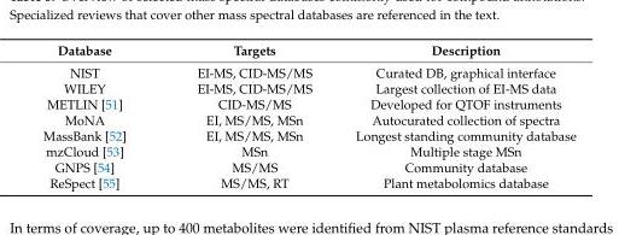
<table><thead><tr><td>Database</td><td>Targets</td><td>Description</td></tr></thead><tbody><tr><td>NIST</td><td>EI-MS, CID-MS/MS</td><td>Curated DB, graphical interface</td></tr><tr><td>WILEY</td><td>EI-MS, CID-MS/MS</td><td>Largest collection of EI-MS data</td></tr><tr><td>METLIN [51]</td><td>CID-MS/MS</td><td>Developed for QTOF instruments</td></tr><tr><td>MoNA</td><td>EI, MS/MS, MSn</td><td>Autocurated collection of spectra</td></tr><tr><td>MassBank [52]</td><td>EI, MS/MS, MSn</td><td>Longest standing community database</td></tr><tr><td>mzCloud [53]</td><td>MSn</td><td>Multiple stage MSn</td></tr><tr><td>GNPS [54]</td><td>MS/MS</td><td>Community database</td></tr><tr><td>ReSpect [55]</td><td>MS/MS, RT</td><td>Plant metabolomics database</td></tr></tbody></table>